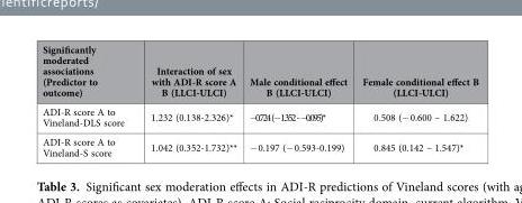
<table><thead><tr><td>Significantly moderated associations (Predictor to outcome)</td><td>Interaction of sex with ADI-R score A B (LLCI-ULCI)</td><td>Male conditional effect B (LLCI-ULCI)</td><td>Female conditional effect B (LLCI-ULCI)</td></tr></thead><tbody><tr><td>ADI-R score A to Vineland-DLS score</td><td>1.232 (0.138-2.326)*</td><td>− 0.724 (− 1.352 - − 0.095)*</td><td>0.508 (− 0.600 – 1.622)</td></tr><tr><td>ADI-R score A to Vineland-S score</td><td>1.042 (0.352-1.732)**</td><td>− 0.197 (− 0.593-0.199)</td><td>0.845 (0.142 – 1.547)*</td></tr></tbody></table>